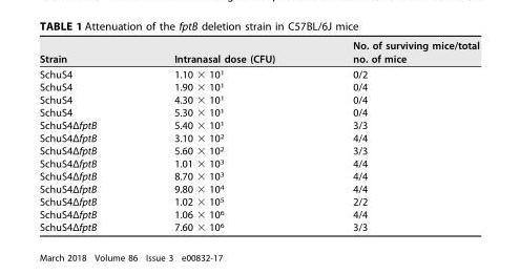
<table><thead><tr><td>Strain</td><td>Intranasal dose (CFU)</td><td>No. of surviving mice/total no. of mice</td></tr></thead><tbody><tr><td>SchuS4</td><td>1.10 × 10<sup>1</sup></td><td>0/2</td></tr><tr><td>SchuS4</td><td>1.90 × 10<sup>1</sup></td><td>0/4</td></tr><tr><td>SchuS4</td><td>4.30 × 10<sup>1</sup></td><td>0/4</td></tr><tr><td>SchuS4</td><td>5.30 × 10<sup>1</sup></td><td>0/4</td></tr><tr><td>SchuS4ΔfptB</td><td>5.40 × 10<sup>1</sup></td><td>3/3</td></tr><tr><td>SchuS4ΔfptB</td><td>3.10 × 10<sup>2</sup></td><td>4/4</td></tr><tr><td>SchuS4ΔfptB</td><td>5.60 × 10<sup>2</sup></td><td>3/3</td></tr><tr><td>SchuS4ΔfptB</td><td>1.01 × 10<sup>3</sup></td><td>4/4</td></tr><tr><td>SchuS4ΔfptB</td><td>8.70 × 10<sup>3</sup></td><td>4/4</td></tr><tr><td>SchuS4ΔfptB</td><td>9.80 × 10<sup>4</sup></td><td>4/4</td></tr><tr><td>SchuS4ΔfptB</td><td>1.02 × 10<sup>5</sup></td><td>2/2</td></tr><tr><td>SchuS4ΔfptB</td><td>1.06 × 10<sup>6</sup></td><td>4/4</td></tr><tr><td>SchuS4ΔfptB</td><td>7.60 × 10<sup>6</sup></td><td>3/3</td></tr></tbody></table>